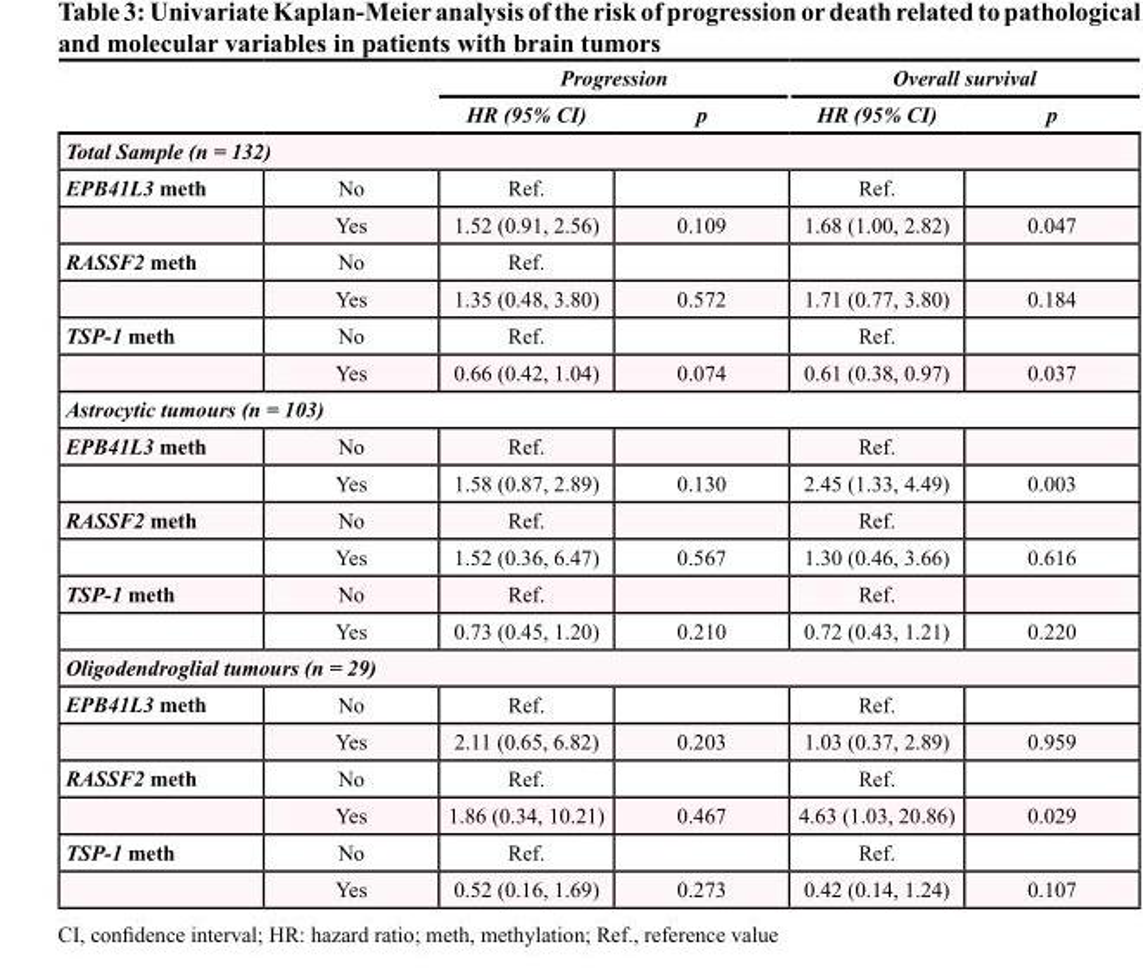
<table><thead><tr><td rowspan="2"></td><td rowspan="2"></td><td colspan="2">Progression</td><td colspan="2">Overall survival</td></tr><tr><td>HR (95% CI)</td><td>p</td><td>HR (95% CI)</td><td>p</td></tr></thead><tbody><tr><td colspan="6">Total Sample (n = 132)</td></tr><tr><td rowspan="2">EPB41L3 meth</td><td>No</td><td>Ref.</td><td></td><td>Ref.</td><td></td></tr><tr><td>Yes</td><td>1.52 (0.91, 2.56)</td><td>0.109</td><td>1.68 (1.00, 2.82)</td><td>0.047</td></tr><tr><td rowspan="2">RASSF2 meth</td><td>No</td><td>Ref.</td><td></td><td></td><td></td></tr><tr><td>Yes</td><td>1.35 (0.48, 3.80)</td><td>0.572</td><td>1.71 (0.77, 3.80)</td><td>0.184</td></tr><tr><td rowspan="2">TSP-1 meth</td><td>No</td><td>Ref.</td><td></td><td>Ref.</td><td></td></tr><tr><td>Yes</td><td>0.66 (0.42, 1.04)</td><td>0.074</td><td>0.61 (0.38, 0.97)</td><td>0.037</td></tr><tr><td colspan="6">Astrocytic tumours (n = 103)</td></tr><tr><td rowspan="2">EPB41L3 meth</td><td>No</td><td>Ref.</td><td></td><td>Ref.</td><td></td></tr><tr><td>Yes</td><td>1.58 (0.87, 2.89)</td><td>0.130</td><td>2.45 (1.33, 4.49)</td><td>0.003</td></tr><tr><td rowspan="2">RASSF2 meth</td><td>No</td><td>Ref.</td><td></td><td>Ref.</td><td></td></tr><tr><td>Yes</td><td>1.52 (0.36, 6.47)</td><td>0.567</td><td>1.30 (0.46, 3.66)</td><td>0.616</td></tr><tr><td rowspan="2">TSP-1 meth</td><td>No</td><td>Ref.</td><td></td><td>Ref.</td><td></td></tr><tr><td>Yes</td><td>0.73 (0.45, 1.20)</td><td>0.210</td><td>0.72 (0.43, 1.21)</td><td>0.220</td></tr><tr><td colspan="6">Oligodendroglial tumours (n = 29)</td></tr><tr><td rowspan="2">EPB41L3 meth</td><td>No</td><td>Ref.</td><td></td><td>Ref.</td><td></td></tr><tr><td>Yes</td><td>2.11 (0.65, 6.82)</td><td>0.203</td><td>1.03 (0.37, 2.89)</td><td>0.959</td></tr><tr><td rowspan="2">RASSF2 meth</td><td>No</td><td>Ref.</td><td></td><td>Ref.</td><td></td></tr><tr><td>Yes</td><td>1.86 (0.34, 10.21)</td><td>0.467</td><td>4.63 (1.03, 20.86)</td><td>0.029</td></tr><tr><td rowspan="2">TSP-1 meth</td><td>No</td><td>Ref.</td><td></td><td>Ref.</td><td></td></tr><tr><td>Yes</td><td>0.52 (0.16, 1.69)</td><td>0.273</td><td>0.42 (0.14, 1.24)</td><td>0.107</td></tr></tbody></table>